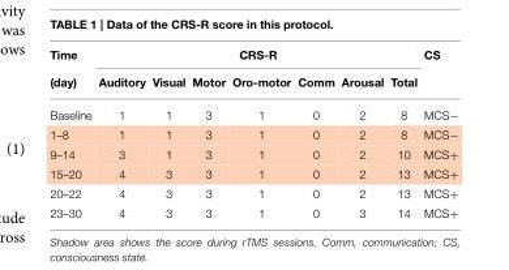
<table><thead><tr><td rowspan="2">Time (day)</td><td colspan="7">CRS-R</td><td rowspan="2">CS</td></tr><tr><td>Auditory</td><td>Visual</td><td>Motor</td><td>Oro-motor</td><td>Comm</td><td>Arousal</td><td>Total</td></tr></thead><tbody><tr><td>Baseline</td><td>1</td><td>1</td><td>3</td><td>1</td><td>0</td><td>2</td><td>8</td><td>MCS−</td></tr><tr><td>1–8</td><td>1</td><td>1</td><td>3</td><td>1</td><td>0</td><td>2</td><td>8</td><td>MCS−</td></tr><tr><td>9–14</td><td>3</td><td>1</td><td>3</td><td>1</td><td>0</td><td>2</td><td>10</td><td>MCS+</td></tr><tr><td>15–20</td><td>4</td><td>3</td><td>3</td><td>1</td><td>0</td><td>2</td><td>13</td><td>MCS+</td></tr><tr><td>20–22</td><td>4</td><td>3</td><td>3</td><td>1</td><td>0</td><td>2</td><td>13</td><td>MCS+</td></tr><tr><td>23–30</td><td>4</td><td>3</td><td>3</td><td>1</td><td>0</td><td>3</td><td>14</td><td>MCS+</td></tr></tbody></table>